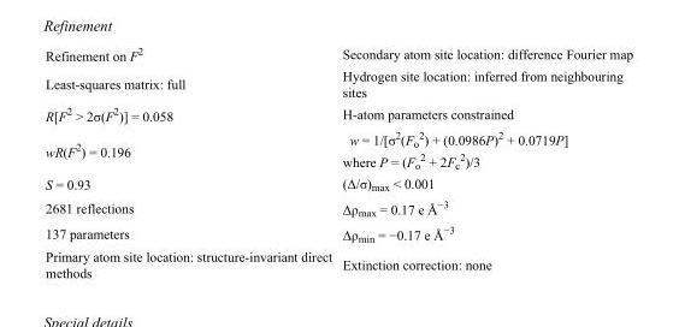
<table><tbody><tr><td>Refinement on F<sup>2</sup></td><td>Secondary atom site location: difference Fourier map</td></tr><tr><td>Least-squares matrix: full</td><td>Hydrogen site location: inferred from neighbouring sites</td></tr><tr><td>R[F<sup>2</sup> &gt; 2σ(F<sup>2</sup>)] = 0.058</td><td>H-atom parameters constrained</td></tr><tr><td>wR(F<sup>2</sup>) = 0.196</td><td>w = 1/[σ<sup>2</sup>(F<sub>o</sub> <sup>2</sup>) + (0.0986P)<sup>2</sup> + 0.0719P] where P = (F<sub>o</sub> <sup>2</sup> + 2F<sub>c</sub> <sup>2</sup>)/3</td></tr><tr><td>S = 0.93</td><td>(Δ/σ)<sub>max</sub> &lt; 0.001</td></tr><tr><td>2681 reflections</td><td>Δρ<sub>max</sub> = 0.17 e Å<sup>−3</sup></td></tr><tr><td>137 parameters</td><td>Δρ<sub>min</sub> = −0.17 e Å<sup>−3</sup></td></tr><tr><td>Primary atom site location: structure-invariant direct methods</td><td>Extinction correction: none</td></tr></tbody></table>